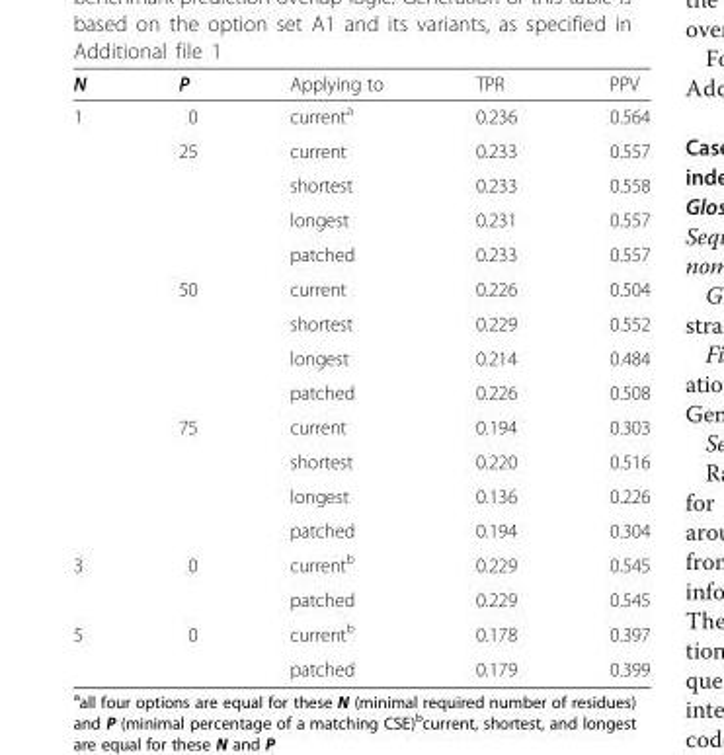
<table><thead><tr><td>N</td><td>P</td><td>Applying to</td><td>TPR</td><td>PPV</td></tr></thead><tbody><tr><td rowspan="13">1</td><td>0</td><td>current<sup>a</sup></td><td>0.236</td><td>0.564</td></tr><tr><td rowspan="4">25</td><td>current</td><td>0.233</td><td>0.557</td></tr><tr><td>shortest</td><td>0.233</td><td>0.558</td></tr><tr><td>longest</td><td>0.231</td><td>0.557</td></tr><tr><td>patched</td><td>0.233</td><td>0.557</td></tr><tr><td rowspan="4">50</td><td>current</td><td>0.226</td><td>0.504</td></tr><tr><td>shortest</td><td>0.229</td><td>0.552</td></tr><tr><td>longest</td><td>0.214</td><td>0.484</td></tr><tr><td>patched</td><td>0.226</td><td>0.508</td></tr><tr><td rowspan="4">75</td><td>current</td><td>0.194</td><td>0.303</td></tr><tr><td>shortest</td><td>0.220</td><td>0.516</td></tr><tr><td>longest</td><td>0.136</td><td>0.226</td></tr><tr><td>patched</td><td>0.194</td><td>0.304</td></tr><tr><td rowspan="2">3</td><td rowspan="2">0</td><td>current<sup>b</sup></td><td>0.229</td><td>0.545</td></tr><tr><td>patched</td><td>0.229</td><td>0.545</td></tr><tr><td rowspan="2">5</td><td rowspan="2">0</td><td>current<sup>b</sup></td><td>0.178</td><td>0.397</td></tr><tr><td>patched</td><td>0.179</td><td>0.399</td></tr></tbody></table>